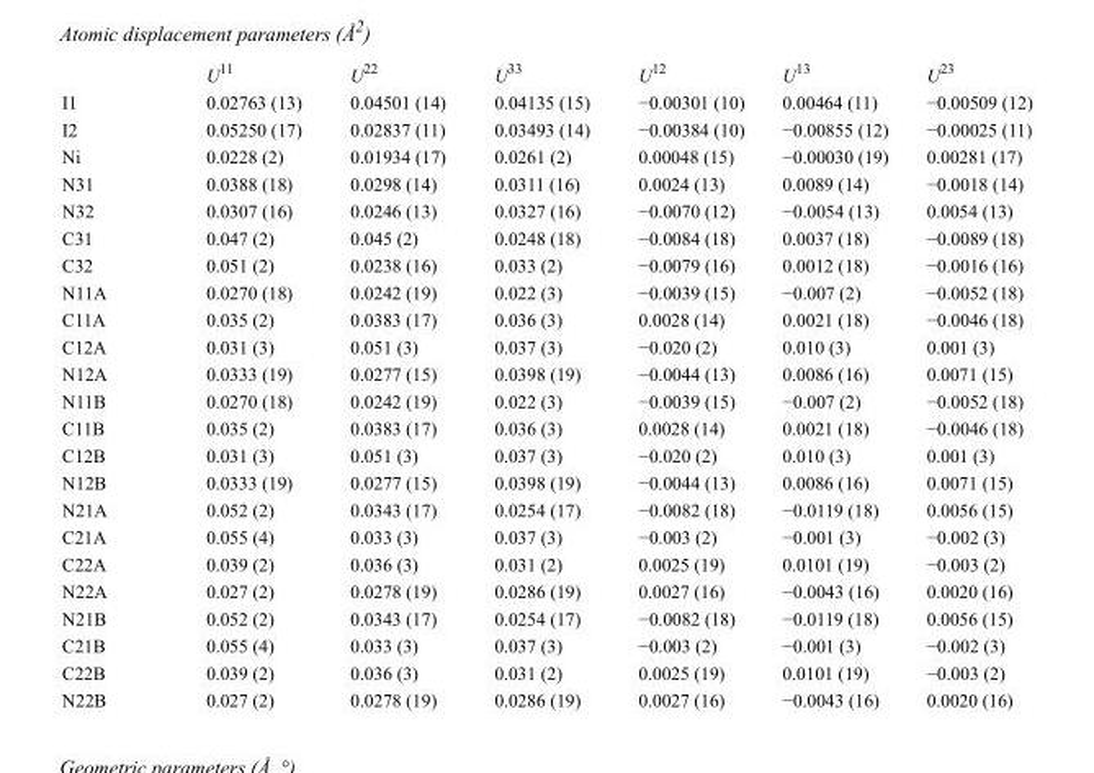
<table><thead><tr><td></td><td>U<sup>11</sup></td><td>U<sup>22</sup></td><td>U<sup>33</sup></td><td>U<sup>12</sup></td><td>U<sup>13</sup></td><td>U<sup>23</sup></td></tr></thead><tbody><tr><td>I1</td><td>0.02763 (13)</td><td>0.04501 (14)</td><td>0.04135 (15)</td><td>−0.00301 (10)</td><td>0.00464 (11)</td><td>−0.00509 (12)</td></tr><tr><td>I2</td><td>0.05250 (17)</td><td>0.02837 (11)</td><td>0.03493 (14)</td><td>−0.00384 (10)</td><td>−0.00855 (12)</td><td>−0.00025 (11)</td></tr><tr><td>Ni</td><td>0.0228 (2)</td><td>0.01934 (17)</td><td>0.0261 (2)</td><td>0.00048 (15)</td><td>−0.00030 (19)</td><td>0.00281 (17)</td></tr><tr><td>N31</td><td>0.0388 (18)</td><td>0.0298 (14)</td><td>0.0311 (16)</td><td>0.0024 (13)</td><td>0.0089 (14)</td><td>−0.0018 (14)</td></tr><tr><td>N32</td><td>0.0307 (16)</td><td>0.0246 (13)</td><td>0.0327 (16)</td><td>−0.0070 (12)</td><td>−0.0054 (13)</td><td>0.0054 (13)</td></tr><tr><td>C31</td><td>0.047 (2)</td><td>0.045 (2)</td><td>0.0248 (18)</td><td>−0.0084 (18)</td><td>0.0037 (18)</td><td>−0.0089 (18)</td></tr><tr><td>C32</td><td>0.051 (2)</td><td>0.0238 (16)</td><td>0.033 (2)</td><td>−0.0079 (16)</td><td>0.0012 (18)</td><td>−0.0016 (16)</td></tr><tr><td>N11A</td><td>0.0270 (18)</td><td>0.0242 (19)</td><td>0.022 (3)</td><td>−0.0039 (15)</td><td>−0.007 (2)</td><td>−0.0052 (18)</td></tr><tr><td>C11A</td><td>0.035 (2)</td><td>0.0383 (17)</td><td>0.036 (3)</td><td>0.0028 (14)</td><td>0.0021 (18)</td><td>−0.0046 (18)</td></tr><tr><td>C12A</td><td>0.031 (3)</td><td>0.051 (3)</td><td>0.037 (3)</td><td>−0.020 (2)</td><td>0.010 (3)</td><td>0.001 (3)</td></tr><tr><td>N12A</td><td>0.0333 (19)</td><td>0.0277 (15)</td><td>0.0398 (19)</td><td>−0.0044 (13)</td><td>0.0086 (16)</td><td>0.0071 (15)</td></tr><tr><td>N11B</td><td>0.0270 (18)</td><td>0.0242 (19)</td><td>0.022 (3)</td><td>−0.0039 (15)</td><td>−0.007 (2)</td><td>−0.0052 (18)</td></tr><tr><td>C11B</td><td>0.035 (2)</td><td>0.0383 (17)</td><td>0.036 (3)</td><td>0.0028 (14)</td><td>0.0021 (18)</td><td>−0.0046 (18)</td></tr><tr><td>C12B</td><td>0.031 (3)</td><td>0.051 (3)</td><td>0.037 (3)</td><td>−0.020 (2)</td><td>0.010 (3)</td><td>0.001 (3)</td></tr><tr><td>N12B</td><td>0.0333 (19)</td><td>0.0277 (15)</td><td>0.0398 (19)</td><td>−0.0044 (13)</td><td>0.0086 (16)</td><td>0.0071 (15)</td></tr><tr><td>N21A</td><td>0.052 (2)</td><td>0.0343 (17)</td><td>0.0254 (17)</td><td>−0.0082 (18)</td><td>−0.0119 (18)</td><td>0.0056 (15)</td></tr><tr><td>C21A</td><td>0.055 (4)</td><td>0.033 (3)</td><td>0.037 (3)</td><td>−0.003 (2)</td><td>−0.001 (3)</td><td>−0.002 (3)</td></tr><tr><td>C22A</td><td>0.039 (2)</td><td>0.036 (3)</td><td>0.031 (2)</td><td>0.0025 (19)</td><td>0.0101 (19)</td><td>−0.003 (2)</td></tr><tr><td>N22A</td><td>0.027 (2)</td><td>0.0278 (19)</td><td>0.0286 (19)</td><td>0.0027 (16)</td><td>−0.0043 (16)</td><td>0.0020 (16)</td></tr><tr><td>N21B</td><td>0.052 (2)</td><td>0.0343 (17)</td><td>0.0254 (17)</td><td>−0.0082 (18)</td><td>−0.0119 (18)</td><td>0.0056 (15)</td></tr><tr><td>C21B</td><td>0.055 (4)</td><td>0.033 (3)</td><td>0.037 (3)</td><td>−0.003 (2)</td><td>−0.001 (3)</td><td>−0.002 (3)</td></tr><tr><td>C22B</td><td>0.039 (2)</td><td>0.036 (3)</td><td>0.031 (2)</td><td>0.0025 (19)</td><td>0.0101 (19)</td><td>−0.003 (2)</td></tr><tr><td>N22B</td><td>0.027 (2)</td><td>0.0278 (19)</td><td>0.0286 (19)</td><td>0.0027 (16)</td><td>−0.0043 (16)</td><td>0.0020 (16)</td></tr></tbody></table>